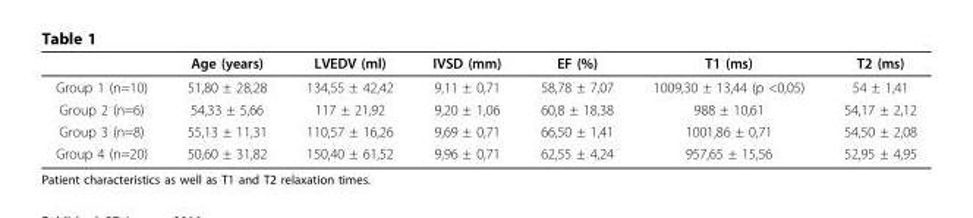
<table><thead><tr><td></td><td>Age (years)</td><td>LVEDV (ml)</td><td>IVSD (mm)</td><td>EF (%)</td><td>T1 (ms)</td><td>T2 (ms)</td></tr></thead><tbody><tr><td>Group 1 (n=10)</td><td>51,80 ± 28,28</td><td>134,55 ± 42,42</td><td>9,11 ± 0,71</td><td>58,78 ± 7,07</td><td>1009,30 ± 13,44 (p &lt;0,05)</td><td>54 ± 1,41</td></tr><tr><td>Group 2 (n=6)</td><td>54,33 ± 5,66</td><td>117 ± 21,92</td><td>9,20 ± 1,06</td><td>60,8 ± 18,38</td><td>988 ± 10,61</td><td>54,17 ± 2,12</td></tr><tr><td>Group 3 (n=8)</td><td>55,13 ± 11,31</td><td>110,57 ± 16,26</td><td>9,69 ± 0,71</td><td>66,50 ± 1,41</td><td>1001,86 ± 0,71</td><td>54,50 ± 2,08</td></tr><tr><td>Group 4 (n=20)</td><td>50,60 ± 31,82</td><td>150,40 ± 61,52</td><td>9,96 ± 0,71</td><td>62,55 ± 4,24</td><td>957,65 ± 15,56</td><td>52,95 ± 4,95</td></tr></tbody></table>